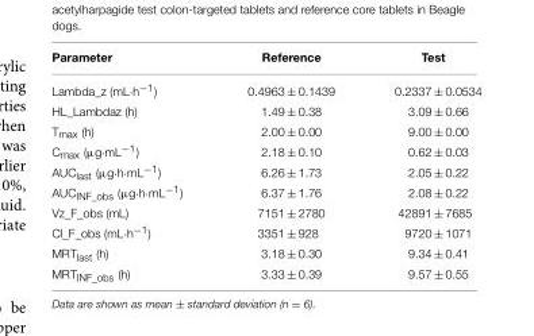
<table><thead><tr><td>Parameter</td><td>Reference</td><td>Test</td></tr></thead><tbody><tr><td>Lambda_z (mL·h<sup>−1</sup>)</td><td>0.4963 ± 0.1439</td><td>0.2337 ± 0.0534</td></tr><tr><td>HL_Lambdaz (h)</td><td>1.49 ± 0.38</td><td>3.09 ± 0.66</td></tr><tr><td>T<sub>max</sub> (h)</td><td>2.00 ± 0.00</td><td>9.00 ± 0.00</td></tr><tr><td>C<sub>max</sub> (µg·mL<sup>−1</sup>)</td><td>2.18 ± 0.10</td><td>0.62 ± 0.03</td></tr><tr><td>AUC<sub>last</sub> (µg·h·mL<sup>−1</sup>)</td><td>6.26 ± 1.73</td><td>2.05 ± 0.22</td></tr><tr><td>AUC<sub>INF_obs</sub> (µg·h·mL<sup>−1</sup>)</td><td>6.37 ± 1.76</td><td>2.08 ± 0.22</td></tr><tr><td>Vz_F_obs (mL)</td><td>7151 ± 2780</td><td>42891 ± 7685</td></tr><tr><td>Cl_F_obs (mL·h<sup>−1</sup>)</td><td>3351 ± 928</td><td>9720 ± 1071</td></tr><tr><td>MRT<sub>last</sub> (h)</td><td>3.18 ± 0.30</td><td>9.34 ± 0.41</td></tr><tr><td>MRT<sub>INF_obs</sub> (h)</td><td>3.33 ± 0.39</td><td>9.57 ± 0.55</td></tr></tbody></table>